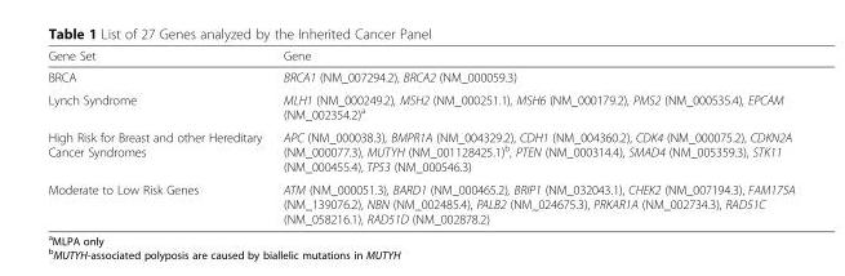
<table><thead><tr><td>Gene Set</td><td>Gene</td></tr></thead><tbody><tr><td>BRCA</td><td>BRCA1 (NM_007294.2), BRCA2 (NM_000059.3)</td></tr><tr><td>Lynch Syndrome</td><td>MLH1 (NM_000249.2), MSH2 (NM_000251.1), MSH6 (NM_000179.2), PMS2 (NM_000535.4), EPCAM (NM_002354.2)<sup>a</sup></td></tr><tr><td>High Risk for Breast and other Hereditary Cancer Syndromes</td><td>APC (NM_000038.3), BMPR1A (NM_004329.2), CDH1 (NM_004360.2), CDK4 (NM_000075.2), CDKN2A (NM_000077.3), MUTYH (NM_001128425.1)<sup>b</sup>, PTEN (NM_000314.4), SMAD4 (NM_005359.3), STK11 (NM_000455.4), TP53 (NM_000546.3)</td></tr><tr><td>Moderate to Low Risk Genes</td><td>ATM (NM_000051.3), BARD1 (NM_000465.2), BRIP1 (NM_032043.1), CHEK2 (NM_007194.3), FAM175A (NM_139076.2), NBN (NM_002485.4), PALB2 (NM_024675.3), PRKAR1A (NM_002734.3), RAD51C (NM_058216.1), RAD51D (NM_002878.2)</td></tr></tbody></table>